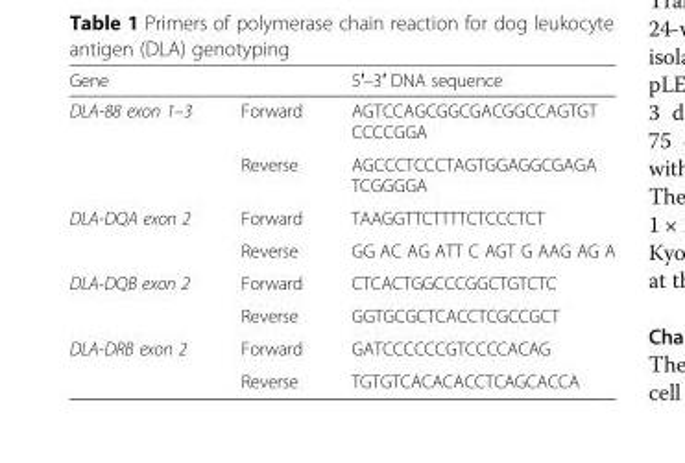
<table><thead><tr><td>Gene</td><td></td><td>5′–3′ DNA sequence</td></tr></thead><tbody><tr><td rowspan="2">DLA-88 exon 1–3</td><td>Forward</td><td>AGTCCAGCGGCGACGGCCAGTGT CCCCGGA</td></tr><tr><td>Reverse</td><td>AGCCCTCCCTAGTGGAGGCGAGA TCGGGGA</td></tr><tr><td rowspan="2">DLA-DQA exon 2</td><td>Forward</td><td>TAAGGTTCTTTTCTCCCTCT</td></tr><tr><td>Reverse</td><td>GG AC AG ATT C AGT G AAG AG A</td></tr><tr><td rowspan="2">DLA-DQB exon 2</td><td>Forward</td><td>CTCACTGGCCCGGCTGTCTC</td></tr><tr><td>Reverse</td><td>GGTGCGCTCACCTCGCCGCT</td></tr><tr><td rowspan="2">DLA-DRB exon 2</td><td>Forward</td><td>GATCCCCCCGTCCCCACAG</td></tr><tr><td>Reverse</td><td>TGTGTCACACACCTCAGCACCA</td></tr></tbody></table>